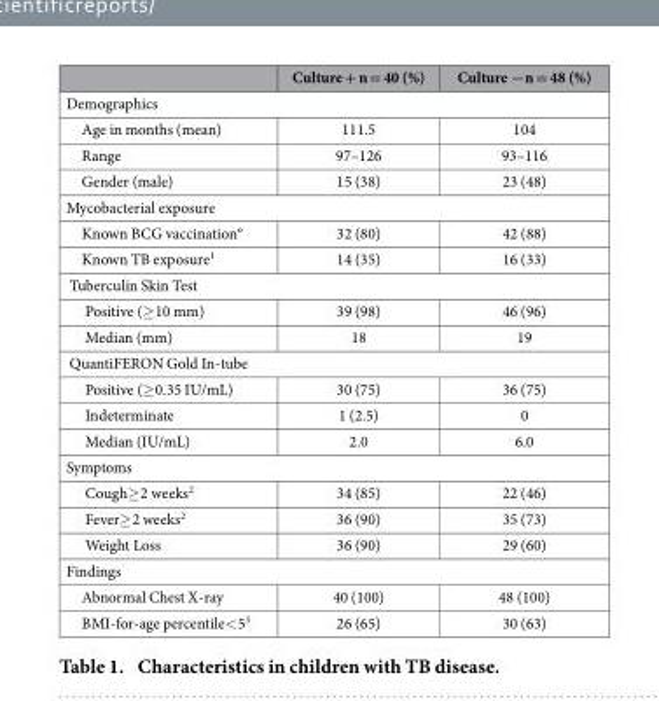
<table><thead><tr><td></td><td>Culture + n = 40 (%)</td><td>Culture −n = 48 (%)</td></tr></thead><tbody><tr><td colspan="3">Demographics</td></tr><tr><td>Age in months (mean)</td><td>111.5</td><td>104</td></tr><tr><td>Range</td><td>97–126</td><td>93–116</td></tr><tr><td>Gender (male)</td><td>15 (38)</td><td>23 (48)</td></tr><tr><td colspan="3">Mycobacterial exposure</td></tr><tr><td>Known BCG vaccination°</td><td>32 (80)</td><td>42 (88)</td></tr><tr><td>Known TB exposure¹</td><td>14 (35)</td><td>16 (33)</td></tr><tr><td colspan="3">Tuberculin Skin Test</td></tr><tr><td>Positive (≥ 10 mm)</td><td>39 (98)</td><td>46 (96)</td></tr><tr><td>Median (mm)</td><td>18</td><td>19</td></tr><tr><td colspan="3">QuantiFERON Gold In-tube</td></tr><tr><td>Positive (≥ 0.35 IU/mL)</td><td>30 (75)</td><td>36 (75)</td></tr><tr><td>Indeterminate</td><td>1 (2.5)</td><td>0</td></tr><tr><td>Median (IU/mL)</td><td>2.0</td><td>6.0</td></tr><tr><td colspan="3">Symptoms</td></tr><tr><td>Cough≥ 2 weeks<sup>2</sup></td><td>34 (85)</td><td>22 (46)</td></tr><tr><td>Fever≥ 2 weeks<sup>2</sup></td><td>36 (90)</td><td>35 (73)</td></tr><tr><td>Weight Loss</td><td>36 (90)</td><td>29 (60)</td></tr><tr><td colspan="3">Findings</td></tr><tr><td>Abnormal Chest X-ray</td><td>40 (100)</td><td>48 (100)</td></tr><tr><td>BMI-for-age percentile&lt; 5<sup>3</sup></td><td>26 (65)</td><td>30 (63)</td></tr></tbody></table>